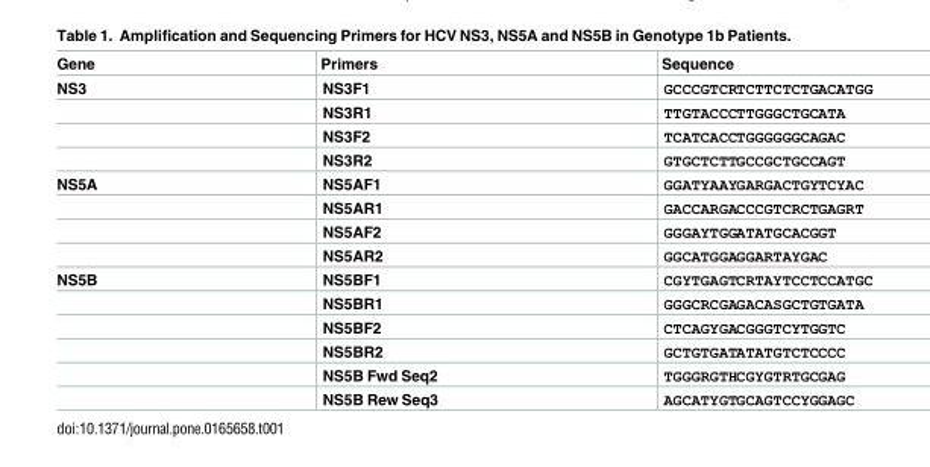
<table><thead><tr><td>Gene</td><td>Primers</td><td>Sequence</td></tr></thead><tbody><tr><td rowspan="4">NS3</td><td>NS3F1</td><td>GCCCGTCRTCTTCTCTGACATGG</td></tr><tr><td>NS3R1</td><td>TTGTACCCTTGGGCTGCATA</td></tr><tr><td>NS3F2</td><td>TCATCACCTGGGGGGCAGAC</td></tr><tr><td>NS3R2</td><td>GTGCTCTTGCCGCTGCCAGT</td></tr><tr><td rowspan="4">NS5A</td><td>NS5AF1</td><td>GGATYAAYGARGACTGYTCYAC</td></tr><tr><td>NS5AR1</td><td>GACCARGACCCGTCRCTGAGRT</td></tr><tr><td>NS5AF2</td><td>GGGAYTGGATATGCACGGT</td></tr><tr><td>NS5AR2</td><td>GGCATGGAGGARTAYGAC</td></tr><tr><td rowspan="6">NS5B</td><td>NS5BF1</td><td>CGYTGAGTCRTAYTCCTCCATGC</td></tr><tr><td>NS5BR1</td><td>GGGCRCGAGACASGCTGTGATA</td></tr><tr><td>NS5BF2</td><td>CTCAGYGACGGGTCYTGGTC</td></tr><tr><td>NS5BR2</td><td>GCTGTGATATATGTCTCCCC</td></tr><tr><td>NS5B Fwd Seq2</td><td>TGGGRGTHCGYGTRTGCGAG</td></tr><tr><td>NS5B Rew Seq3</td><td>AGCATYGTGCAGTCCYGGAGC</td></tr></tbody></table>